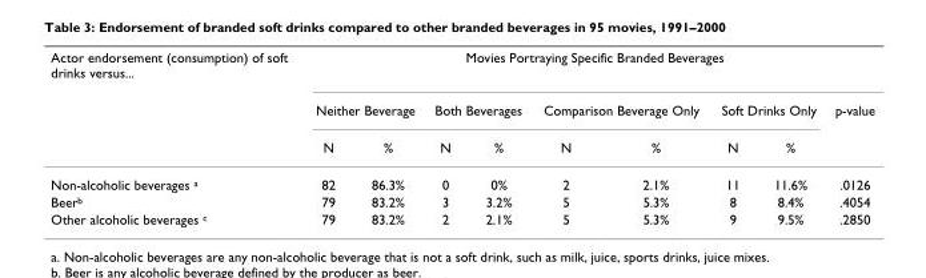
<table><thead><tr><td rowspan="3">Actor endorsement (consumption) of soft drinks versus...</td><td colspan="9">Movies Portraying Specific Branded Beverages</td></tr><tr><td colspan="2">Neither Beverage</td><td colspan="2">Both Beverages</td><td colspan="2">Comparison Beverage Only</td><td colspan="2">Soft Drinks Only</td><td rowspan="2">p-value</td></tr><tr><td>N</td><td>%</td><td>N</td><td>%</td><td>N</td><td>%</td><td>N</td><td>%</td></tr></thead><tbody><tr><td>Non-alcoholic beverages <sup>a</sup></td><td>82</td><td>86.3%</td><td>0</td><td>0%</td><td>2</td><td>2.1%</td><td>11</td><td>11.6%</td><td>.0126</td></tr><tr><td>Beer<sup>b</sup></td><td>79</td><td>83.2%</td><td>3</td><td>3.2%</td><td>5</td><td>5.3%</td><td>8</td><td>8.4%</td><td>.4054</td></tr><tr><td>Other alcoholic beverages <sup>c</sup></td><td>79</td><td>83.2%</td><td>2</td><td>2.1%</td><td>5</td><td>5.3%</td><td>9</td><td>9.5%</td><td>.2850</td></tr></tbody></table>